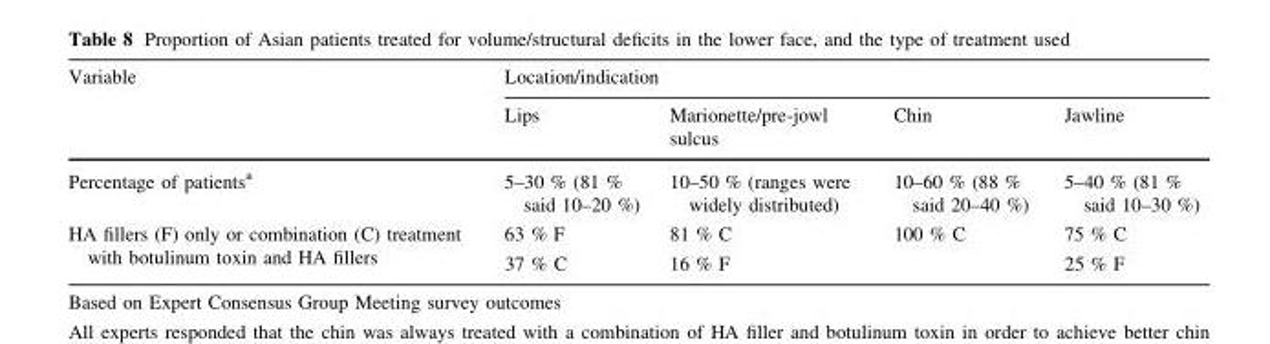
<table><thead><tr><td rowspan="2">Variable</td><td colspan="4">Location/indication</td></tr><tr><td>Lips</td><td>Marionette/pre-jowl sulcus</td><td>Chin</td><td>Jawline</td></tr></thead><tbody><tr><td>Percentage of patients<sup>a</sup></td><td>5–30 % (81 % said 10–20 %)</td><td>10–50 % (ranges were widely distributed)</td><td>10–60 % (88 % said 20–40 %)</td><td>5–40 % (81 % said 10–30 %)</td></tr><tr><td>HA fillers (F) only or combination (C) treatment with botulinum toxin and HA fillers</td><td>63 % F 37 % C</td><td>81 % C 16 % F</td><td>100 % C</td><td>75 % C 25 % F</td></tr></tbody></table>